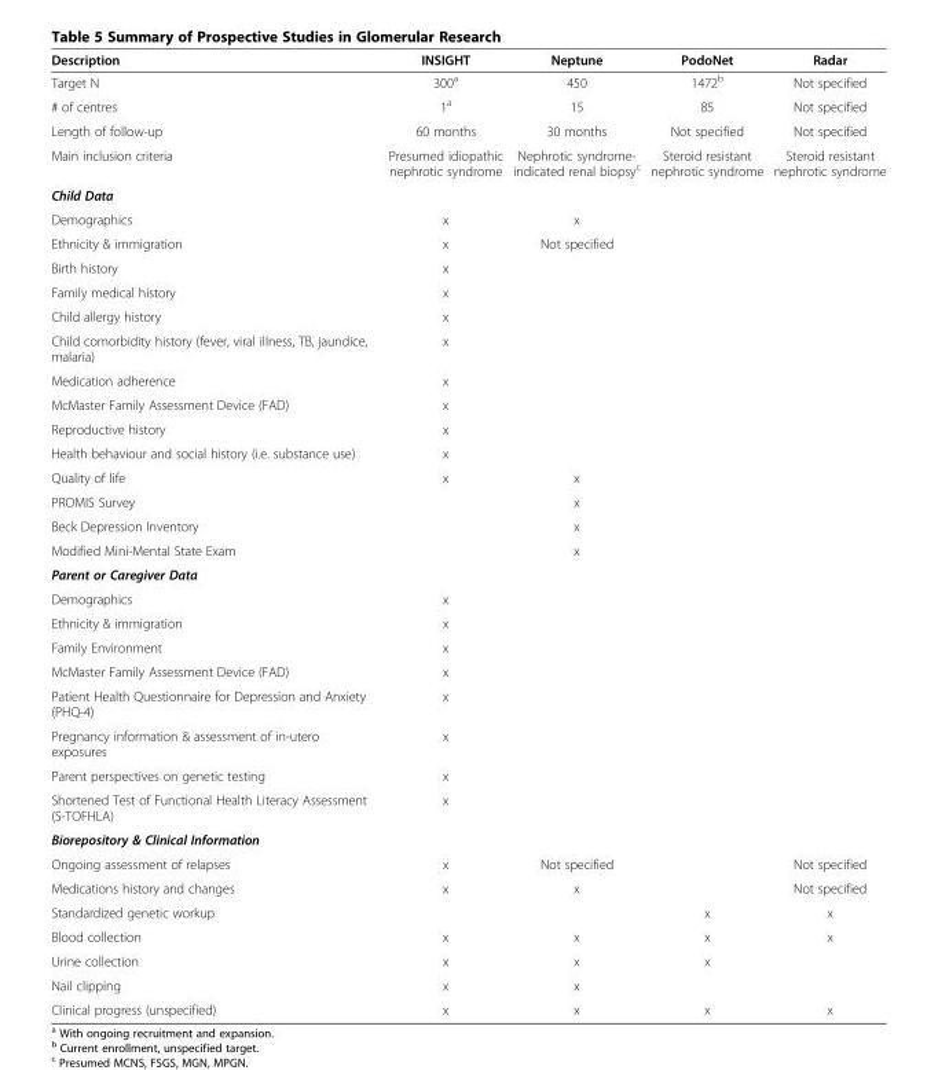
<table><thead><tr><td>Description</td><td>INSIGHT</td><td>Neptune</td><td>PodoNet</td><td>Radar</td></tr></thead><tbody><tr><td>Target N</td><td>300<sup>a</sup></td><td>450</td><td>1472<sup>b</sup></td><td>Not specified</td></tr><tr><td># of centres</td><td>1<sup>a</sup></td><td>15</td><td>85</td><td>Not specified</td></tr><tr><td>Length of follow-up</td><td>60 months</td><td>30 months</td><td>Not specified</td><td>Not specified</td></tr><tr><td>Main inclusion criteria</td><td>Presumed idiopathic nephrotic syndrome</td><td>Nephrotic syndrome- indicated renal biopsy<sup>c</sup></td><td>Steroid resistant nephrotic syndrome</td><td>Steroid resistant nephrotic syndrome</td></tr><tr><td colspan="5">Child Data</td></tr><tr><td>Demographics</td><td>x</td><td>x</td><td></td><td></td></tr><tr><td>Ethnicity &amp; immigration</td><td>x</td><td>Not specified</td><td></td><td></td></tr><tr><td>Birth history</td><td>x</td><td></td><td></td><td></td></tr><tr><td>Family medical history</td><td>x</td><td></td><td></td><td></td></tr><tr><td>Child allergy history</td><td>x</td><td></td><td></td><td></td></tr><tr><td>Child comorbidity history (fever, viral illness, TB, jaundice, malaria)</td><td>x</td><td></td><td></td><td></td></tr><tr><td>Medication adherence</td><td>x</td><td></td><td></td><td></td></tr><tr><td>McMaster Family Assessment Device (FAD)</td><td>x</td><td></td><td></td><td></td></tr><tr><td>Reproductive history</td><td>x</td><td></td><td></td><td></td></tr><tr><td>Health behaviour and social history (i.e. substance use)</td><td>x</td><td></td><td></td><td></td></tr><tr><td>Quality of life</td><td>x</td><td>x</td><td></td><td></td></tr><tr><td>PROMIS Survey</td><td></td><td>x</td><td></td><td></td></tr><tr><td>Beck Depression Inventory</td><td></td><td>x</td><td></td><td></td></tr><tr><td>Modified Mini-Mental State Exam</td><td></td><td>x</td><td></td><td></td></tr><tr><td colspan="5">Parent or Caregiver Data</td></tr><tr><td>Demographics</td><td>x</td><td></td><td></td><td></td></tr><tr><td>Ethnicity &amp; immigration</td><td>x</td><td></td><td></td><td></td></tr><tr><td>Family Environment</td><td>x</td><td></td><td></td><td></td></tr><tr><td>McMaster Family Assessment Device (FAD)</td><td>x</td><td></td><td></td><td></td></tr><tr><td>Patient Health Questionnaire for Depression and Anxiety (PHQ-4)</td><td>x</td><td></td><td></td><td></td></tr><tr><td>Pregnancy information &amp; assessment of in-utero exposures</td><td>x</td><td></td><td></td><td></td></tr><tr><td>Parent perspectives on genetic testing</td><td>x</td><td></td><td></td><td></td></tr><tr><td>Shortened Test of Functional Health Literacy Assessment (S-TOFHLA)</td><td>x</td><td></td><td></td><td></td></tr><tr><td colspan="5">Biorepository &amp; Clinical Information</td></tr><tr><td>Ongoing assessment of relapses</td><td>x</td><td>Not specified</td><td></td><td>Not specified</td></tr><tr><td>Medications history and changes</td><td>x</td><td>x</td><td></td><td>Not specified</td></tr><tr><td>Standardized genetic workup</td><td></td><td></td><td>x</td><td>x</td></tr><tr><td>Blood collection</td><td>x</td><td>x</td><td>x</td><td>x</td></tr><tr><td>Urine collection</td><td>x</td><td>x</td><td>x</td><td></td></tr><tr><td>Nail clipping</td><td>x</td><td>x</td><td></td><td></td></tr><tr><td>Clinical progress (unspecified)</td><td>x</td><td>x</td><td>x</td><td>x</td></tr></tbody></table>